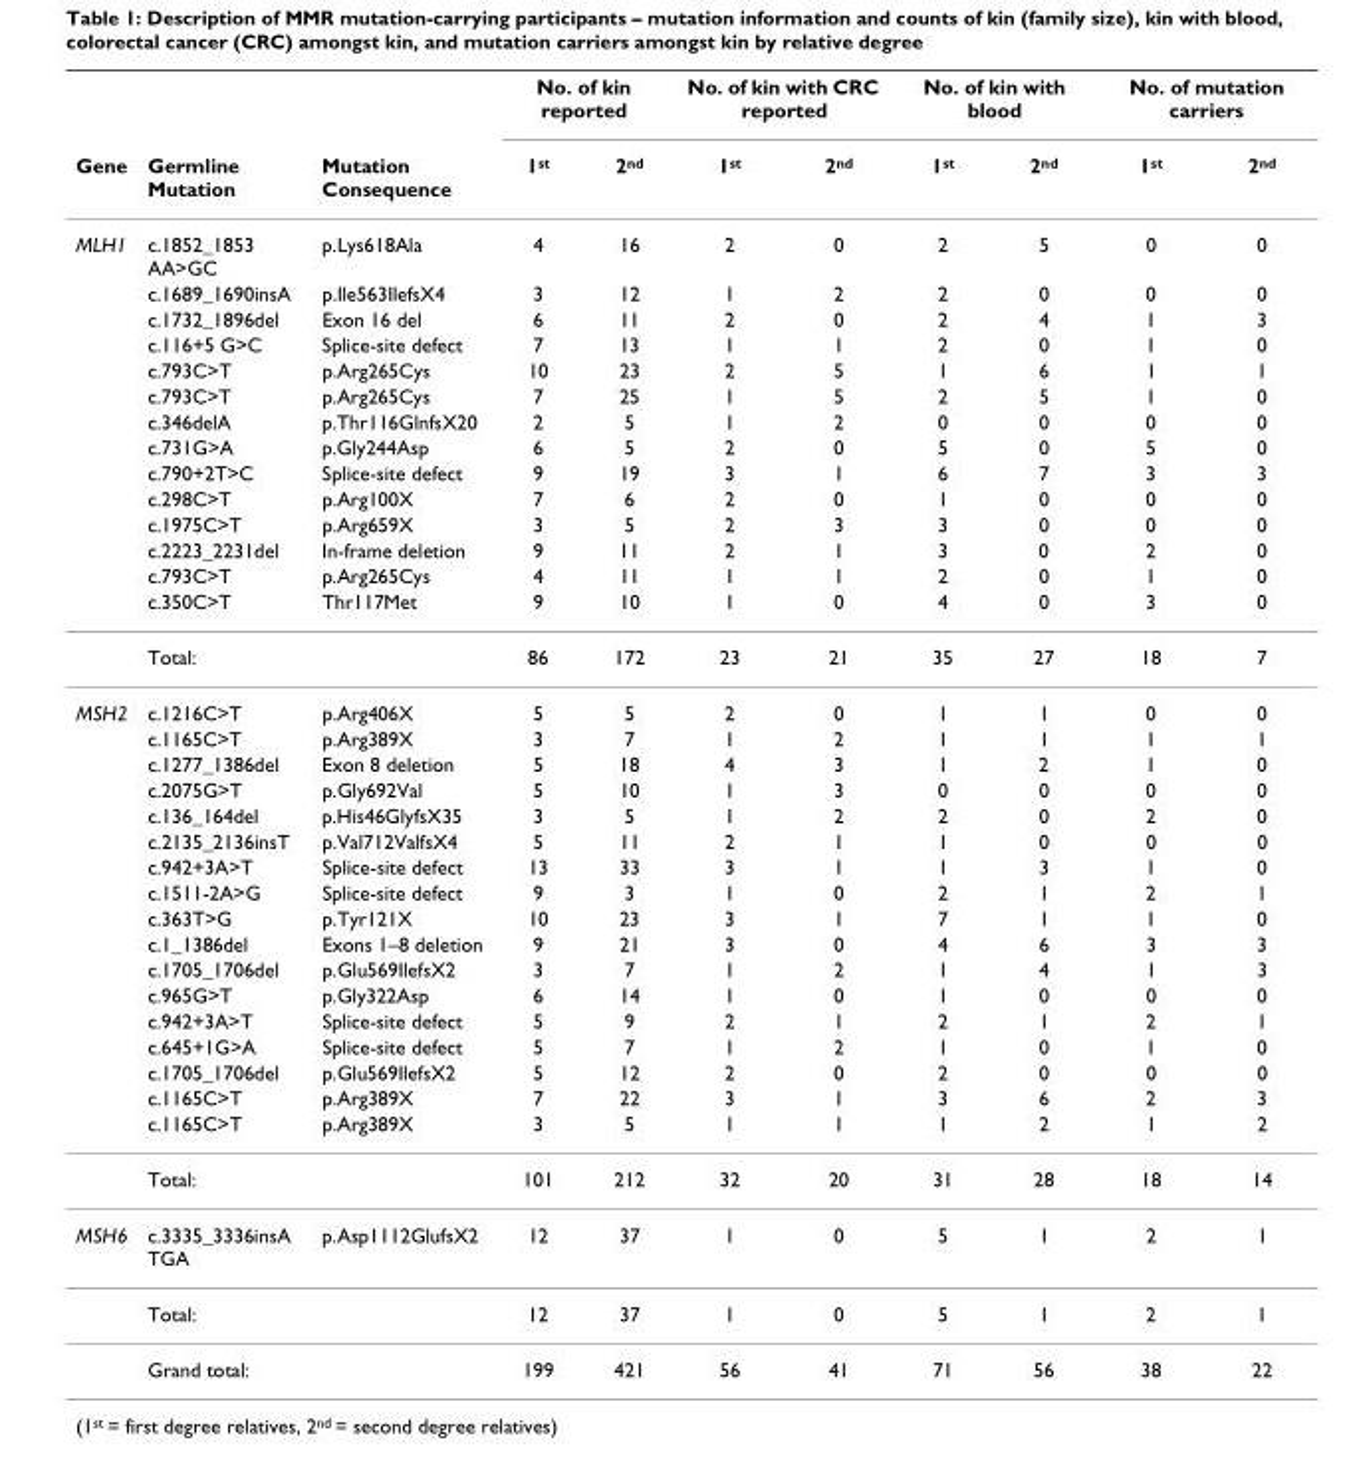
<table><thead><tr><td rowspan="2">Gene</td><td rowspan="2">Germline Mutation</td><td rowspan="2">Mutation Consequence</td><td colspan="2">No. of kin reported</td><td colspan="2">No. of kin with CRC reported</td><td colspan="2">No. of kin with blood</td><td colspan="2">No. of mutation carriers</td></tr><tr><td>1<sup>st</sup></td><td>2<sup>nd</sup></td><td>1<sup>st</sup></td><td>2<sup>nd</sup></td><td>1<sup>st</sup></td><td>2<sup>nd</sup></td><td>1<sup>st</sup></td><td>2<sup>nd</sup></td></tr></thead><tbody><tr><td rowspan="15">MLH1</td><td>c.1852_1853 AA&gt;GC</td><td>p.Lys618Ala</td><td>4</td><td>16</td><td>2</td><td>0</td><td>2</td><td>5</td><td>0</td><td>0</td></tr><tr><td>c.1689_1690insA</td><td>p.Ile563IlefsX4</td><td>3</td><td>12</td><td>1</td><td>2</td><td>2</td><td>0</td><td>0</td><td>0</td></tr><tr><td>c.1732_1896del</td><td>Exon 16 del</td><td>6</td><td>11</td><td>2</td><td>0</td><td>2</td><td>4</td><td>1</td><td>3</td></tr><tr><td>c.116+5 G&gt;C</td><td>Splice-site defect</td><td>7</td><td>13</td><td>1</td><td>1</td><td>2</td><td>0</td><td>1</td><td>0</td></tr><tr><td>c.793C&gt;T</td><td>p.Arg265Cys</td><td>10</td><td>23</td><td>2</td><td>5</td><td>1</td><td>6</td><td>1</td><td>1</td></tr><tr><td>c.793C&gt;T</td><td>p.Arg265Cys</td><td>7</td><td>25</td><td>1</td><td>5</td><td>2</td><td>5</td><td>1</td><td>0</td></tr><tr><td>c.346delA</td><td>p.Thr116GlnfsX20</td><td>2</td><td>5</td><td>1</td><td>2</td><td>0</td><td>0</td><td>0</td><td>0</td></tr><tr><td>c.731G&gt;A</td><td>p.Gly244Asp</td><td>6</td><td>5</td><td>2</td><td>0</td><td>5</td><td>0</td><td>5</td><td>0</td></tr><tr><td>c.790+2T&gt;C</td><td>Splice-site defect</td><td>9</td><td>19</td><td>3</td><td>1</td><td>6</td><td>7</td><td>3</td><td>3</td></tr><tr><td>c.298C&gt;T</td><td>p.Arg100X</td><td>7</td><td>6</td><td>2</td><td>0</td><td>1</td><td>0</td><td>0</td><td>0</td></tr><tr><td>c.1975C&gt;T</td><td>p.Arg659X</td><td>3</td><td>5</td><td>2</td><td>3</td><td>3</td><td>0</td><td>0</td><td>0</td></tr><tr><td>c.2223_2231del</td><td>In-frame deletion</td><td>9</td><td>11</td><td>2</td><td>1</td><td>3</td><td>0</td><td>2</td><td>0</td></tr><tr><td>c.793C&gt;T</td><td>p.Arg265Cys</td><td>4</td><td>11</td><td>1</td><td>1</td><td>2</td><td>0</td><td>1</td><td>0</td></tr><tr><td>c.350C&gt;T</td><td>Thr117Met</td><td>9</td><td>10</td><td>1</td><td>0</td><td>4</td><td>0</td><td>3</td><td>0</td></tr><tr><td>Total:</td><td></td><td>86</td><td>172</td><td>23</td><td>21</td><td>35</td><td>27</td><td>18</td><td>7</td></tr><tr><td rowspan="18">MSH2</td><td>c.1216C&gt;T</td><td>p.Arg406X</td><td>5</td><td>5</td><td>2</td><td>0</td><td>1</td><td>1</td><td>0</td><td>0</td></tr><tr><td>c.1165C&gt;T</td><td>p.Arg389X</td><td>3</td><td>7</td><td>1</td><td>2</td><td>1</td><td>1</td><td>1</td><td>1</td></tr><tr><td>c.1277_1386del</td><td>Exon 8 deletion</td><td>5</td><td>18</td><td>4</td><td>3</td><td>1</td><td>2</td><td>1</td><td>0</td></tr><tr><td>c.2075G&gt;T</td><td>p.Gly692Val</td><td>5</td><td>10</td><td>1</td><td>3</td><td>0</td><td>0</td><td>0</td><td>0</td></tr><tr><td>c.136_164del</td><td>p.His46GlyfsX35</td><td>3</td><td>5</td><td>1</td><td>2</td><td>2</td><td>0</td><td>2</td><td>0</td></tr><tr><td>c.2135_2136insT</td><td>p.Val712ValfsX4</td><td>5</td><td>11</td><td>2</td><td>1</td><td>1</td><td>0</td><td>0</td><td>0</td></tr><tr><td>c.942+3A&gt;T</td><td>Splice-site defect</td><td>13</td><td>33</td><td>3</td><td>1</td><td>1</td><td>3</td><td>1</td><td>0</td></tr><tr><td>c.1511-2A&gt;G</td><td>Splice-site defect</td><td>9</td><td>3</td><td>1</td><td>0</td><td>2</td><td>1</td><td>2</td><td>1</td></tr><tr><td>c.363T&gt;G</td><td>p.Tyr121X</td><td>10</td><td>23</td><td>3</td><td>1</td><td>7</td><td>1</td><td>1</td><td>0</td></tr><tr><td>c.1_1386del</td><td>Exons 1–8 deletion</td><td>9</td><td>21</td><td>3</td><td>0</td><td>4</td><td>6</td><td>3</td><td>3</td></tr><tr><td>c.1705_1706del</td><td>p.Glu569IlefsX2</td><td>3</td><td>7</td><td>1</td><td>2</td><td>1</td><td>4</td><td>1</td><td>3</td></tr><tr><td>c.965G&gt;T</td><td>p.Gly322Asp</td><td>6</td><td>14</td><td>1</td><td>0</td><td>1</td><td>0</td><td>0</td><td>0</td></tr><tr><td>c.942+3A&gt;T</td><td>Splice-site defect</td><td>5</td><td>9</td><td>2</td><td>1</td><td>2</td><td>1</td><td>2</td><td>1</td></tr><tr><td>c.645+1G&gt;A</td><td>Splice-site defect</td><td>5</td><td>7</td><td>1</td><td>2</td><td>1</td><td>0</td><td>1</td><td>0</td></tr><tr><td>c.1705_1706del</td><td>p.Glu569IlefsX2</td><td>5</td><td>12</td><td>2</td><td>0</td><td>2</td><td>0</td><td>0</td><td>0</td></tr><tr><td>c.1165C&gt;T</td><td>p.Arg389X</td><td>7</td><td>22</td><td>3</td><td>1</td><td>3</td><td>6</td><td>2</td><td>3</td></tr><tr><td>c.1165C&gt;T</td><td>p.Arg389X</td><td>3</td><td>5</td><td>1</td><td>1</td><td>1</td><td>2</td><td>1</td><td>2</td></tr><tr><td>Total:</td><td></td><td>101</td><td>212</td><td>32</td><td>20</td><td>31</td><td>28</td><td>18</td><td>14</td></tr><tr><td rowspan="3">MSH6</td><td>c.3335_3336insA TGA</td><td>p.Asp1112GlufsX2</td><td>12</td><td>37</td><td>1</td><td>0</td><td>5</td><td>1</td><td>2</td><td>1</td></tr><tr><td>Total:</td><td></td><td>12</td><td>37</td><td>1</td><td>0</td><td>5</td><td>1</td><td>2</td><td>1</td></tr><tr><td>Grand total:</td><td></td><td>199</td><td>421</td><td>56</td><td>41</td><td>71</td><td>56</td><td>38</td><td>22</td></tr></tbody></table>